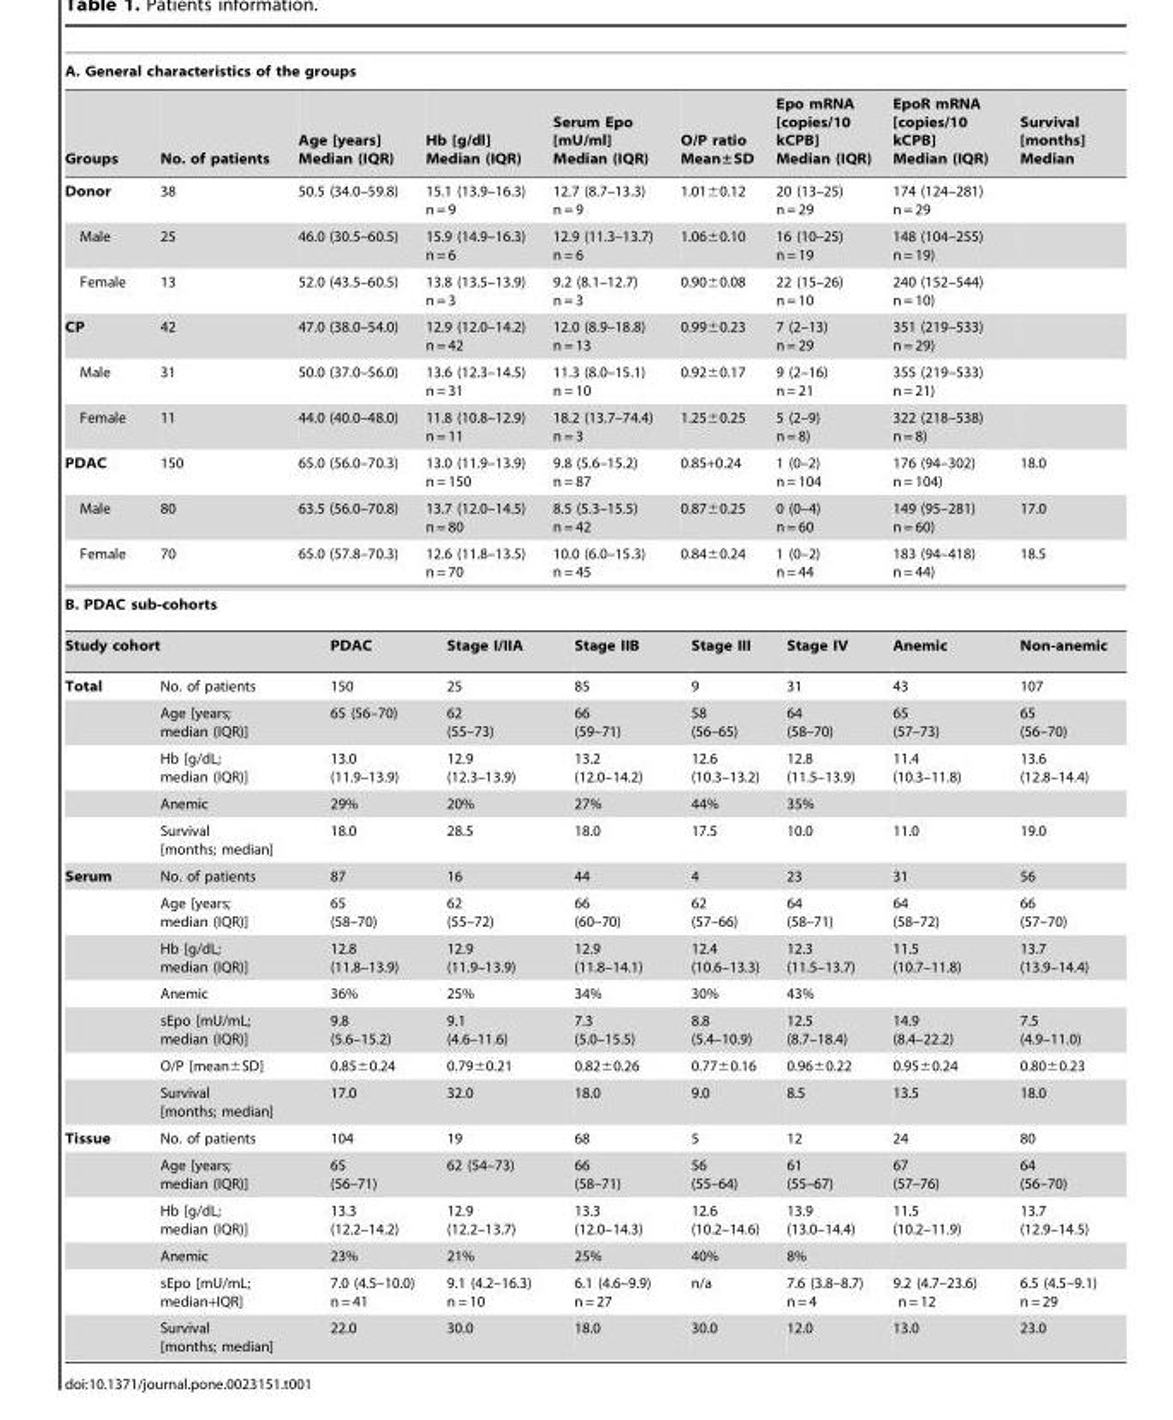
<table><thead><tr><td colspan="9">A. General characteristics of the groups</td></tr><tr><td>Groups</td><td>No. of patients</td><td>Age [years] Median (IQR)</td><td>Hb [g/dl] Median (IQR)</td><td>Serum Epo [mU/ml] Median (IQR)</td><td>O/P ratio Mean±SD</td><td>Epo mRNA [copies/10 kCPB] Median (IQR)</td><td>EpoR mRNA [copies/10 kCPB] Median (IQR)</td><td>Survival [months] Median</td></tr></thead><tbody><tr><td>Donor</td><td>38</td><td>50.5 (34.0–59.8)</td><td>15.1 (13.9–16.3) n = 9</td><td>12.7 (8.7–13.3) n = 9</td><td>1.01±0.12</td><td>20 (13–25) n = 29</td><td>174 (124–281) n = 29</td><td></td></tr><tr><td>Male</td><td>25</td><td>46.0 (30.5–60.5)</td><td>15.9 (14.9–16.3) n = 6</td><td>12.9 (11.3–13.7) n = 6</td><td>1.06±0.10</td><td>16 (10–25) n = 19</td><td>148 (104–255) n = 19)</td><td></td></tr><tr><td>Female</td><td>13</td><td>52.0 (43.5–60.5)</td><td>13.8 (13.5–13.9) n = 3</td><td>9.2 (8.1–12.7) n = 3</td><td>0.90±0.08</td><td>22 (15–26) n = 10</td><td>240 (152–544) n = 10)</td><td></td></tr><tr><td>CP</td><td>42</td><td>47.0 (38.0–54.0)</td><td>12.9 (12.0–14.2) n = 42</td><td>12.0 (8.9–18.8) n = 13</td><td>0.99±0.23</td><td>7 (2–13) n = 29</td><td>351 (219–533) n = 29)</td><td></td></tr><tr><td>Male</td><td>31</td><td>50.0 (37.0–56.0)</td><td>13.6 (12.3–14.5) n = 31</td><td>11.3 (8.0–15.1) n = 10</td><td>0.92±0.17</td><td>9 (2–16) n = 21</td><td>355 (219–533) n = 21)</td><td></td></tr><tr><td>Female</td><td>11</td><td>44.0 (40.0–48.0)</td><td>11.8 (10.8–12.9) n = 11</td><td>18.2 (13.7–74.4) n = 3</td><td>1.25±0.25</td><td>5 (2–9) n = 8)</td><td>322 (218–538) n = 8)</td><td></td></tr><tr><td>PDAC</td><td>150</td><td>65.0 (56.0–70.3)</td><td>13.0 (11.9–13.9) n = 150</td><td>9.8 (5.6–15.2) n = 87</td><td>0.85+0.24</td><td>1 (0–2) n = 104</td><td>176 (94–302) n = 104)</td><td>18.0</td></tr><tr><td>Male</td><td>80</td><td>63.5 (56.0–70.8)</td><td>13.7 (12.0–14.5) n = 80</td><td>8.5 (5.3–15.5) n = 42</td><td>0.87±0.25</td><td>0 (0–4) n = 60</td><td>149 (95–281) n = 60)</td><td>17.0</td></tr><tr><td>Female</td><td>70</td><td>65.0 (57.8–70.3)</td><td>12.6 (11.8–13.5) n = 70</td><td>10.0 (6.0–15.3) n = 45</td><td>0.84±0.24</td><td>1 (0–2) n = 44</td><td>183 (94–418) n = 44)</td><td>18.5</td></tr><tr><td colspan="9">B. PDAC sub-cohorts</td></tr><tr><td>Study cohort</td><td></td><td>PDAC</td><td>Stage I/IIA</td><td>Stage IIB</td><td>Stage III</td><td>Stage IV</td><td>Anemic</td><td>Non-anemic</td></tr><tr><td rowspan="5">Total</td><td>No. of patients</td><td>150</td><td>25</td><td>85</td><td>9</td><td>31</td><td>43</td><td>107</td></tr><tr><td>Age [years; median (IQR)]</td><td>65 (56–70)</td><td>62 (55–73)</td><td>66 (59–71)</td><td>58 (56–65)</td><td>64 (58–70)</td><td>65 (57–73)</td><td>65 (56–70)</td></tr><tr><td>Hb [g/dL; median (IQR)]</td><td>13.0 (11.9–13.9)</td><td>12.9 (12.3–13.9)</td><td>13.2 (12.0–14.2)</td><td>12.6 (10.3–13.2)</td><td>12.8 (11.5–13.9)</td><td>11.4 (10.3–11.8)</td><td>13.6 (12.8–14.4)</td></tr><tr><td>Anemic</td><td>29%</td><td>20%</td><td>27%</td><td>44%</td><td>35%</td><td></td><td></td></tr><tr><td>Survival [months; median]</td><td>18.0</td><td>28.5</td><td>18.0</td><td>17.5</td><td>10.0</td><td>11.0</td><td>19.0</td></tr><tr><td rowspan="7">Serum</td><td>No. of patients</td><td>87</td><td>16</td><td>44</td><td>4</td><td>23</td><td>31</td><td>56</td></tr><tr><td>Age [years; median (IQR)]</td><td>65 (58–70)</td><td>62 (55–72)</td><td>66 (60–70)</td><td>62 (57–66)</td><td>64 (58–71)</td><td>64 (58–72)</td><td>66 (57–70)</td></tr><tr><td>Hb [g/dL; median (IQR)]</td><td>12.8 (11.8–13.9)</td><td>12.9 (11.9–13.9)</td><td>12.9 (11.8–14.1)</td><td>12.4 (10.6–13.3)</td><td>12.3 (11.5–13.7)</td><td>11.5 (10.7–11.8)</td><td>13.7 (13.9–14.4)</td></tr><tr><td>Anemic</td><td>36%</td><td>25%</td><td>34%</td><td>30%</td><td>43%</td><td></td><td></td></tr><tr><td>sEpo [mU/mL; median (IQR)]</td><td>9.8 (5.6–15.2)</td><td>9.1 (4.6–11.6)</td><td>7.3 (5.0–15.5)</td><td>8.8 (5.4–10.9)</td><td>12.5 (8.7–18.4)</td><td>14.9 (8.4–22.2)</td><td>7.5 (4.9–11.0)</td></tr><tr><td>O/P [mean±SD]</td><td>0.85±0.24</td><td>0.79±0.21</td><td>0.82±0.26</td><td>0.77±0.16</td><td>0.96±0.22</td><td>0.95±0.24</td><td>0.80±0.23</td></tr><tr><td>Survival [months; median]</td><td>17.0</td><td>32.0</td><td>18.0</td><td>9.0</td><td>8.5</td><td>13.5</td><td>18.0</td></tr><tr><td rowspan="6">Tissue</td><td>No. of patients</td><td>104</td><td>19</td><td>68</td><td>5</td><td>12</td><td>24</td><td>80</td></tr><tr><td>Age [years; median (IQR)]</td><td>65 (56–71)</td><td>62 (54–73)</td><td>66 (58–71)</td><td>56 (55–64)</td><td>61 (55–67)</td><td>67 (57–76)</td><td>64 (56–70)</td></tr><tr><td>Hb [g/dL; median (IQR)]</td><td>13.3 (12.2–14.2)</td><td>12.9 (12.2–13.7)</td><td>13.3 (12.0–14.3)</td><td>12.6 (10.2–14.6)</td><td>13.9 (13.0–14.4)</td><td>11.5 (10.2–11.9)</td><td>13.7 (12.9–14.5)</td></tr><tr><td>Anemic</td><td>23%</td><td>21%</td><td>25%</td><td>40%</td><td>8%</td><td></td><td></td></tr><tr><td>sEpo [mU/mL; median+IQR]</td><td>7.0 (4.5–10.0) n = 41</td><td>9.1 (4.2–16.3) n = 10</td><td>6.1 (4.6–9.9) n = 27</td><td>n/a</td><td>7.6 (3.8–8.7) n = 4</td><td>9.2 (4.7–23.6) n = 12</td><td>6.5 (4.5–9.1) n = 29</td></tr><tr><td>Survival [months; median]</td><td>22.0</td><td>30.0</td><td>18.0</td><td>30.0</td><td>12.0</td><td>13.0</td><td>23.0</td></tr></tbody></table>